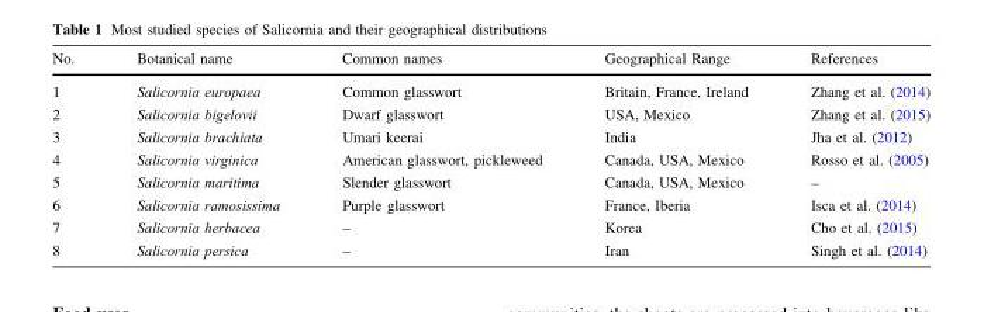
<table><thead><tr><td>No.</td><td>Botanical name</td><td>Common names</td><td>Geographical Range</td><td>References</td></tr></thead><tbody><tr><td>1</td><td>Salicornia europaea</td><td>Common glasswort</td><td>Britain, France, Ireland</td><td>Zhang et al. (2014)</td></tr><tr><td>2</td><td>Salicornia bigelovii</td><td>Dwarf glasswort</td><td>USA, Mexico</td><td>Zhang et al. (2015)</td></tr><tr><td>3</td><td>Salicornia brachiata</td><td>Umari keerai</td><td>India</td><td>Jha et al. (2012)</td></tr><tr><td>4</td><td>Salicornia virginica</td><td>American glasswort, pickleweed</td><td>Canada, USA, Mexico</td><td>Rosso et al. (2005)</td></tr><tr><td>5</td><td>Salicornia maritima</td><td>Slender glasswort</td><td>Canada, USA, Mexico</td><td>–</td></tr><tr><td>6</td><td>Salicornia ramosissima</td><td>Purple glasswort</td><td>France, Iberia</td><td>Isca et al. (2014)</td></tr><tr><td>7</td><td>Salicornia herbacea</td><td>–</td><td>Korea</td><td>Cho et al. (2015)</td></tr><tr><td>8</td><td>Salicornia persica</td><td>–</td><td>Iran</td><td>Singh et al. (2014)</td></tr></tbody></table>